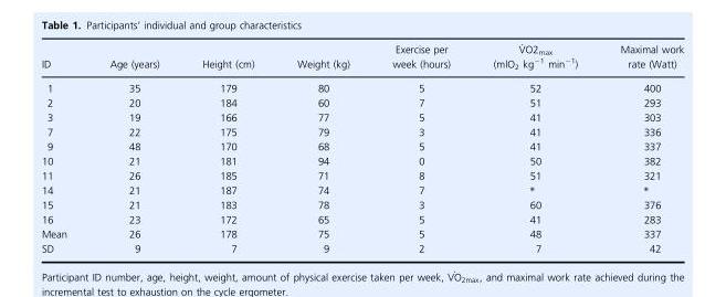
<table><thead><tr><td>ID</td><td>Age (years)</td><td>Height (cm)</td><td>Weight (kg)</td><td>Exercise per week (hours)</td><td>V̇ O2<sub>max</sub> (mlO<sub>2</sub> kg<sup>−1</sup> min<sup>−1</sup>)</td><td>Maximal work rate (Watt)</td></tr></thead><tbody><tr><td>1</td><td>35</td><td>179</td><td>80</td><td>5</td><td>52</td><td>400</td></tr><tr><td>2</td><td>20</td><td>184</td><td>60</td><td>7</td><td>51</td><td>293</td></tr><tr><td>3</td><td>19</td><td>166</td><td>77</td><td>5</td><td>41</td><td>303</td></tr><tr><td>7</td><td>22</td><td>175</td><td>79</td><td>3</td><td>41</td><td>336</td></tr><tr><td>9</td><td>48</td><td>170</td><td>68</td><td>5</td><td>41</td><td>337</td></tr><tr><td>10</td><td>21</td><td>181</td><td>94</td><td>0</td><td>50</td><td>382</td></tr><tr><td>11</td><td>26</td><td>185</td><td>71</td><td>8</td><td>51</td><td>321</td></tr><tr><td>14</td><td>21</td><td>187</td><td>74</td><td>7</td><td>*</td><td>*</td></tr><tr><td>15</td><td>21</td><td>183</td><td>78</td><td>3</td><td>60</td><td>376</td></tr><tr><td>16</td><td>23</td><td>172</td><td>65</td><td>5</td><td>41</td><td>283</td></tr><tr><td>Mean</td><td>26</td><td>178</td><td>75</td><td>5</td><td>48</td><td>337</td></tr><tr><td>SD</td><td>9</td><td>7</td><td>9</td><td>2</td><td>7</td><td>42</td></tr></tbody></table>